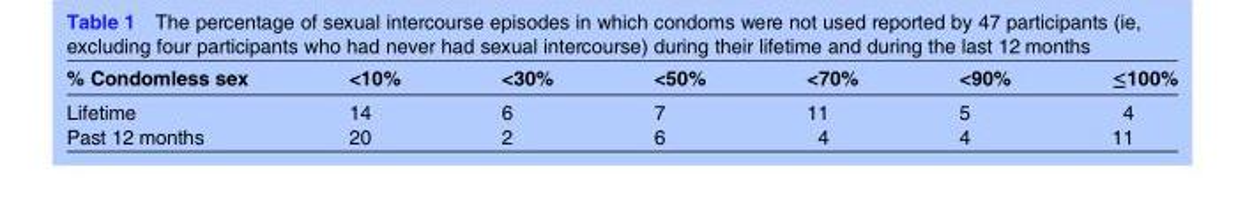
<table><thead><tr><td>% Condomless sex</td><td>&lt;10%</td><td>&lt;30%</td><td>&lt;50%</td><td>&lt;70%</td><td>&lt;90%</td><td>≤100%</td></tr></thead><tbody><tr><td>Lifetime</td><td>14</td><td>6</td><td>7</td><td>11</td><td>5</td><td>4</td></tr><tr><td>Past 12 months</td><td>20</td><td>2</td><td>6</td><td>4</td><td>4</td><td>11</td></tr></tbody></table>